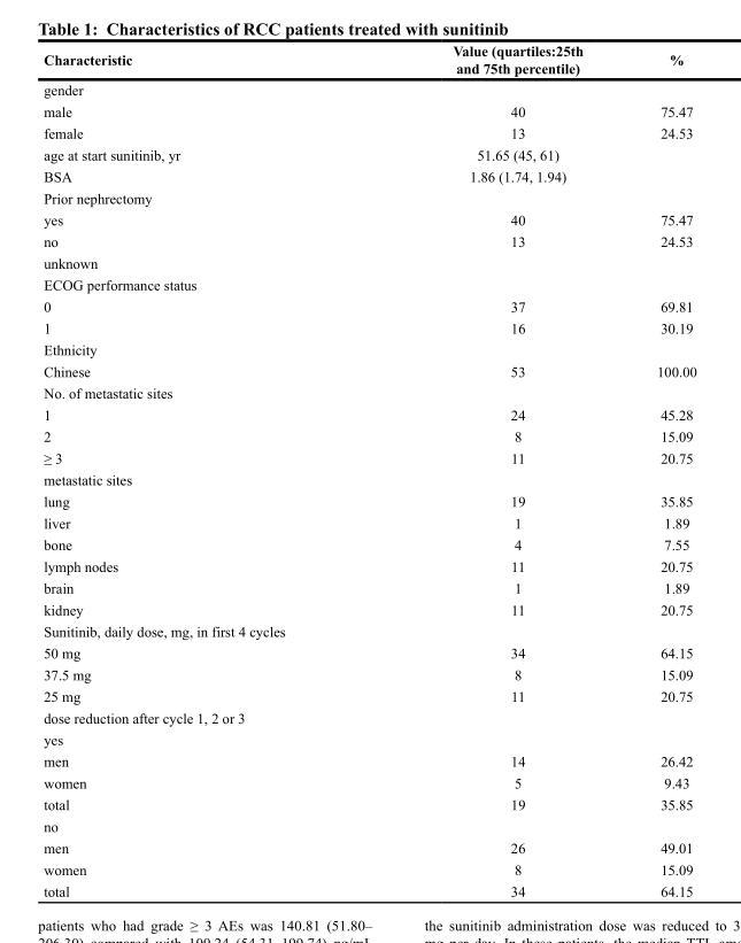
<table><thead><tr><td>Characteristic</td><td>Value (quartiles:25th and 75th percentile)</td><td>%</td></tr></thead><tbody><tr><td colspan="3">gender</td></tr><tr><td>male</td><td>40</td><td>75.47</td></tr><tr><td>female</td><td>13</td><td>24.53</td></tr><tr><td>age at start sunitinib, yr</td><td>51.65 (45, 61)</td><td></td></tr><tr><td>BSA</td><td>1.86 (1.74, 1.94)</td><td></td></tr><tr><td colspan="3">Prior nephrectomy</td></tr><tr><td>yes</td><td>40</td><td>75.47</td></tr><tr><td>no</td><td>13</td><td>24.53</td></tr><tr><td colspan="3">unknown</td></tr><tr><td colspan="3">ECOG performance status</td></tr><tr><td>0</td><td>37</td><td>69.81</td></tr><tr><td>1</td><td>16</td><td>30.19</td></tr><tr><td colspan="3">Ethnicity</td></tr><tr><td>Chinese</td><td>53</td><td>100.00</td></tr><tr><td colspan="3">No. of metastatic sites</td></tr><tr><td>1</td><td>24</td><td>45.28</td></tr><tr><td>2</td><td>8</td><td>15.09</td></tr><tr><td>≥ 3</td><td>11</td><td>20.75</td></tr><tr><td colspan="3">metastatic sites</td></tr><tr><td>lung</td><td>19</td><td>35.85</td></tr><tr><td>liver</td><td>1</td><td>1.89</td></tr><tr><td>bone</td><td>4</td><td>7.55</td></tr><tr><td>lymph nodes</td><td>11</td><td>20.75</td></tr><tr><td>brain</td><td>1</td><td>1.89</td></tr><tr><td>kidney</td><td>11</td><td>20.75</td></tr><tr><td colspan="3">Sunitinib, daily dose, mg, in first 4 cycles</td></tr><tr><td>50 mg</td><td>34</td><td>64.15</td></tr><tr><td>37.5 mg</td><td>8</td><td>15.09</td></tr><tr><td>25 mg</td><td>11</td><td>20.75</td></tr><tr><td colspan="3">dose reduction after cycle 1, 2 or 3</td></tr><tr><td colspan="3">yes</td></tr><tr><td>men</td><td>14</td><td>26.42</td></tr><tr><td>women</td><td>5</td><td>9.43</td></tr><tr><td>total</td><td>19</td><td>35.85</td></tr><tr><td colspan="3">no</td></tr><tr><td>men</td><td>26</td><td>49.01</td></tr><tr><td>women</td><td>8</td><td>15.09</td></tr><tr><td>total</td><td>34</td><td>64.15</td></tr></tbody></table>